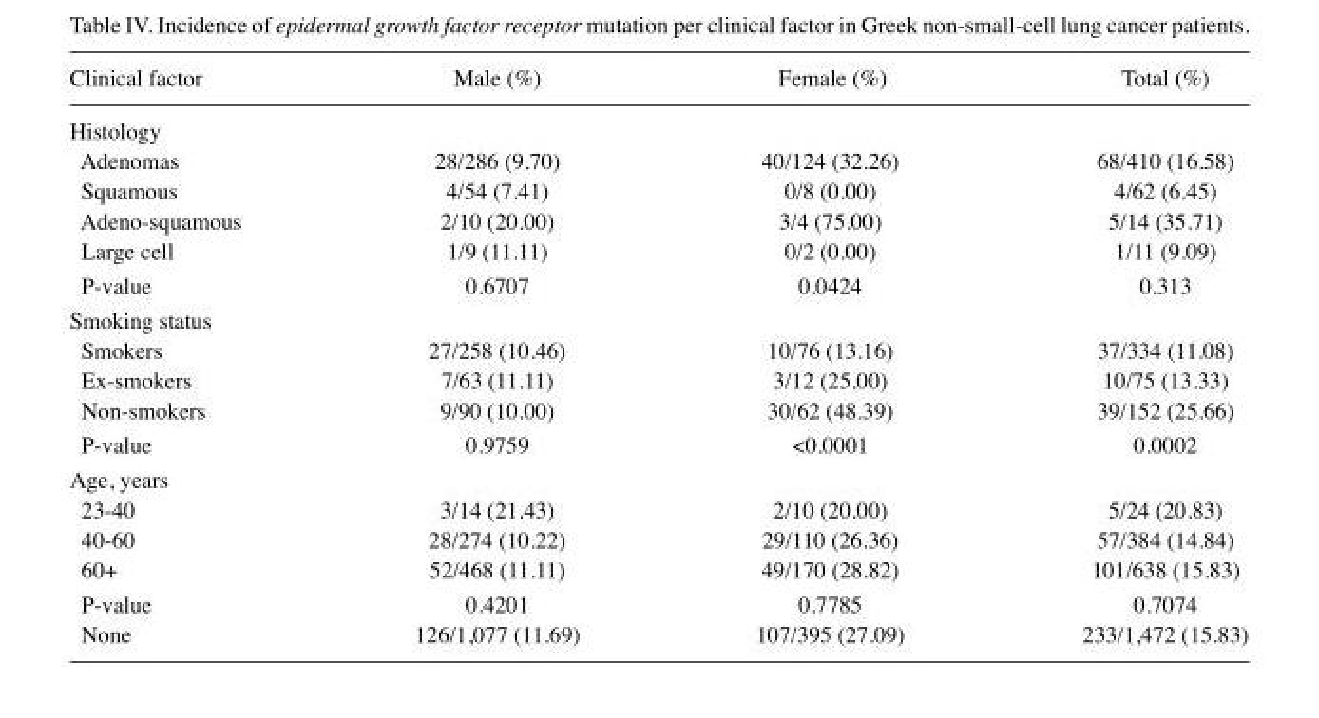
<table><thead><tr><td>Clinical factor</td><td>Male (%)</td><td>Female (%)</td><td>Total (%)</td></tr></thead><tbody><tr><td colspan="4">Histology</td></tr><tr><td>Adenomas</td><td>28/286 (9.70)</td><td>40/124 (32.26)</td><td>68/410 (16.58)</td></tr><tr><td>Squamous</td><td>4/54 (7.41)</td><td>0/8 (0.00)</td><td>4/62 (6.45)</td></tr><tr><td>Adeno-squamous</td><td>2/10 (20.00)</td><td>3/4 (75.00)</td><td>5/14 (35.71)</td></tr><tr><td>Large cell</td><td>1/9 (11.11)</td><td>0/2 (0.00)</td><td>1/11 (9.09)</td></tr><tr><td>P-value</td><td>0.6707</td><td>0.0424</td><td>0.313</td></tr><tr><td colspan="4">Smoking status</td></tr><tr><td>Smokers</td><td>27/258 (10.46)</td><td>10/76 (13.16)</td><td>37/334 (11.08)</td></tr><tr><td>Ex-smokers</td><td>7/63 (11.11)</td><td>3/12 (25.00)</td><td>10/75 (13.33)</td></tr><tr><td>Non-smokers</td><td>9/90 (10.00)</td><td>30/62 (48.39)</td><td>39/152 (25.66)</td></tr><tr><td>P-value</td><td>0.9759</td><td>&lt;0.0001</td><td>0.0002</td></tr><tr><td colspan="4">Age, years</td></tr><tr><td>23-40</td><td>3/14 (21.43)</td><td>2/10 (20.00)</td><td>5/24 (20.83)</td></tr><tr><td>40-60</td><td>28/274 (10.22)</td><td>29/110 (26.36)</td><td>57/384 (14.84)</td></tr><tr><td>60+</td><td>52/468 (11.11)</td><td>49/170 (28.82)</td><td>101/638 (15.83)</td></tr><tr><td>P-value</td><td>0.4201</td><td>0.7785</td><td>0.7074</td></tr><tr><td>None</td><td>126/1,077 (11.69)</td><td>107/395 (27.09)</td><td>233/1,472 (15.83)</td></tr></tbody></table>